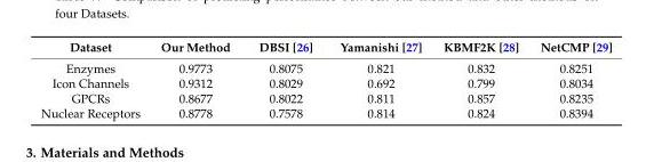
<table><thead><tr><td>Dataset</td><td>Our Method</td><td>DBSI [26]</td><td>Yamanishi [27]</td><td>KBMF2K [28]</td><td>NetCMP [29]</td></tr></thead><tbody><tr><td>Enzymes</td><td>0.9773</td><td>0.8075</td><td>0.821</td><td>0.832</td><td>0.8251</td></tr><tr><td>Icon Channels</td><td>0.9312</td><td>0.8029</td><td>0.692</td><td>0.799</td><td>0.8034</td></tr><tr><td>GPCRs</td><td>0.8677</td><td>0.8022</td><td>0.811</td><td>0.857</td><td>0.8235</td></tr><tr><td>Nuclear Receptors</td><td>0.8778</td><td>0.7578</td><td>0.814</td><td>0.824</td><td>0.8394</td></tr></tbody></table>